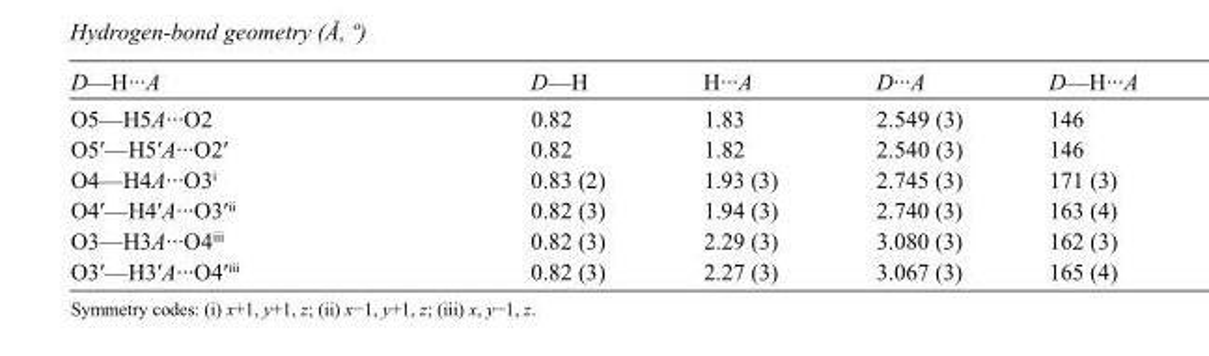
<table><tbody><tr><td>D—H···A</td><td>D—H</td><td>H···A</td><td>D···A</td><td>D—H···A</td></tr><tr><td>O5—H5A···O2</td><td>0.82</td><td>1.83</td><td>2.549 (3)</td><td>146</td></tr><tr><td>O5′—H5′A···O2′</td><td>0.82</td><td>1.82</td><td>2.540 (3)</td><td>146</td></tr><tr><td>O4—H4A···O3<sup>i</sup></td><td>0.83 (2)</td><td>1.93 (3)</td><td>2.745 (3)</td><td>171 (3)</td></tr><tr><td>O4′—H4′A···O3′<sup>ii</sup></td><td>0.82 (3)</td><td>1.94 (3)</td><td>2.740 (3)</td><td>163 (4)</td></tr><tr><td>O3—H3A···O4<sup>iii</sup></td><td>0.82 (3)</td><td>2.29 (3)</td><td>3.080 (3)</td><td>162 (3)</td></tr><tr><td>O3′—H3′A···O4′<sup>iii</sup></td><td>0.82 (3)</td><td>2.27 (3)</td><td>3.067 (3)</td><td>165 (4)</td></tr></tbody></table>